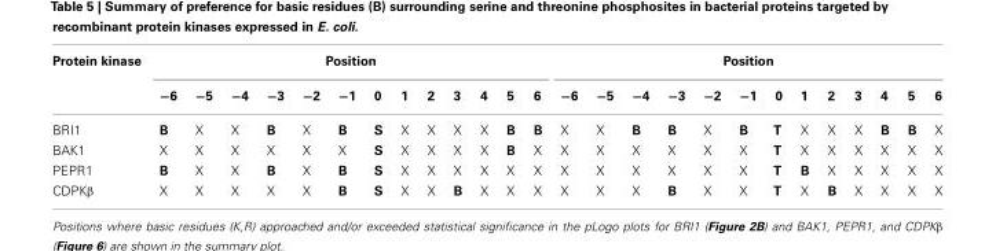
<table><thead><tr><td rowspan="2">Protein kinase</td><td colspan="13">Position</td><td colspan="13">Position</td></tr><tr><td>−6</td><td>−5</td><td>−4</td><td>−3</td><td>−2</td><td>−1</td><td>0</td><td>1</td><td>2</td><td>3</td><td>4</td><td>5</td><td>6</td><td>−6</td><td>−5</td><td>−4</td><td>−3</td><td>−2</td><td>−1</td><td>0</td><td>1</td><td>2</td><td>3</td><td>4</td><td>5</td><td>6</td></tr></thead><tbody><tr><td>BRI1</td><td>B</td><td>X</td><td>X</td><td>B</td><td>X</td><td>B</td><td>S</td><td>X</td><td>X</td><td>X</td><td>X</td><td>B</td><td>B</td><td>X</td><td>X</td><td>B</td><td>B</td><td>X</td><td>B</td><td>T</td><td>X</td><td>X</td><td>X</td><td>B</td><td>B</td><td>X</td></tr><tr><td>BAK1</td><td>X</td><td>X</td><td>X</td><td>X</td><td>X</td><td>X</td><td>S</td><td>X</td><td>X</td><td>X</td><td>X</td><td>B</td><td>X</td><td>X</td><td>X</td><td>X</td><td>X</td><td>X</td><td>X</td><td>T</td><td>X</td><td>X</td><td>X</td><td>X</td><td>X</td><td>X</td></tr><tr><td>PEPR1</td><td>B</td><td>X</td><td>X</td><td>B</td><td>X</td><td>B</td><td>S</td><td>X</td><td>X</td><td>X</td><td>X</td><td>X</td><td>X</td><td>X</td><td>X</td><td>X</td><td>X</td><td>X</td><td>X</td><td>T</td><td>B</td><td>X</td><td>X</td><td>X</td><td>X</td><td>X</td></tr><tr><td>CDPKβ</td><td>X</td><td>X</td><td>X</td><td>X</td><td>X</td><td>B</td><td>S</td><td>X</td><td>X</td><td>B</td><td>X</td><td>X</td><td>X</td><td>X</td><td>X</td><td>X</td><td>B</td><td>X</td><td>X</td><td>T</td><td>X</td><td>B</td><td>X</td><td>X</td><td>X</td><td>X</td></tr></tbody></table>